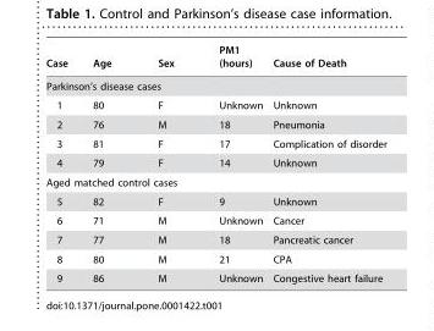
<table><thead><tr><td>Case</td><td>Age</td><td>Sex</td><td>PM1 (hours)</td><td>Cause of Death</td></tr></thead><tbody><tr><td colspan="5">Parkinson’s disease cases</td></tr><tr><td>1</td><td>80</td><td>F</td><td>Unknown</td><td>Unknown</td></tr><tr><td>2</td><td>76</td><td>M</td><td>18</td><td>Pneumonia</td></tr><tr><td>3</td><td>81</td><td>F</td><td>17</td><td>Complication of disorder</td></tr><tr><td>4</td><td>79</td><td>F</td><td>14</td><td>Unknown</td></tr><tr><td colspan="5">Aged matched control cases</td></tr><tr><td>5</td><td>82</td><td>F</td><td>9</td><td>Unknown</td></tr><tr><td>6</td><td>71</td><td>M</td><td>Unknown</td><td>Cancer</td></tr><tr><td>7</td><td>77</td><td>M</td><td>18</td><td>Pancreatic cancer</td></tr><tr><td>8</td><td>80</td><td>M</td><td>21</td><td>CPA</td></tr><tr><td>9</td><td>86</td><td>M</td><td>Unknown</td><td>Congestive heart failure</td></tr></tbody></table>